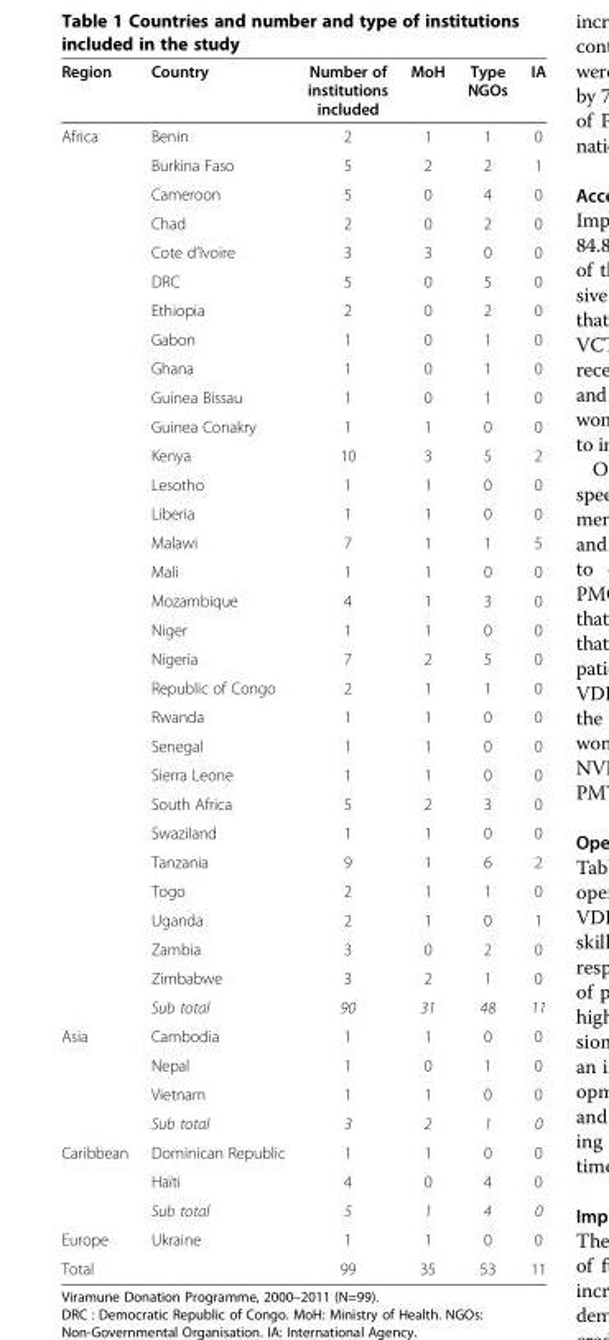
<table><thead><tr><td>Region</td><td>Country</td><td>Number of institutions included</td><td>MoH</td><td>Type NGOs</td><td>IA</td></tr></thead><tbody><tr><td rowspan="31">Africa</td><td>Benin</td><td>2</td><td>1</td><td>1</td><td>0</td></tr><tr><td>Burkina Faso</td><td>5</td><td>2</td><td>2</td><td>1</td></tr><tr><td>Cameroon</td><td>5</td><td>0</td><td>4</td><td>0</td></tr><tr><td>Chad</td><td>2</td><td>0</td><td>2</td><td>0</td></tr><tr><td>Cote d’Ivoire</td><td>3</td><td>3</td><td>0</td><td>0</td></tr><tr><td>DRC</td><td>5</td><td>0</td><td>5</td><td>0</td></tr><tr><td>Ethiopia</td><td>2</td><td>0</td><td>2</td><td>0</td></tr><tr><td>Gabon</td><td>1</td><td>0</td><td>1</td><td>0</td></tr><tr><td>Ghana</td><td>1</td><td>0</td><td>1</td><td>0</td></tr><tr><td>Guinea Bissau</td><td>1</td><td>0</td><td>1</td><td>0</td></tr><tr><td>Guinea Conakry</td><td>1</td><td>1</td><td>0</td><td>0</td></tr><tr><td>Kenya</td><td>10</td><td>3</td><td>5</td><td>2</td></tr><tr><td>Lesotho</td><td>1</td><td>1</td><td>0</td><td>0</td></tr><tr><td>Liberia</td><td>1</td><td>1</td><td>0</td><td>0</td></tr><tr><td>Malawi</td><td>7</td><td>1</td><td>1</td><td>5</td></tr><tr><td>Mali</td><td>1</td><td>1</td><td>0</td><td>0</td></tr><tr><td>Mozambique</td><td>4</td><td>1</td><td>3</td><td>0</td></tr><tr><td>Niger</td><td>1</td><td>1</td><td>0</td><td>0</td></tr><tr><td>Nigeria</td><td>7</td><td>2</td><td>5</td><td>0</td></tr><tr><td>Republic of Congo</td><td>2</td><td>1</td><td>1</td><td>0</td></tr><tr><td>Rwanda</td><td>1</td><td>1</td><td>0</td><td>0</td></tr><tr><td>Senegal</td><td>1</td><td>1</td><td>0</td><td>0</td></tr><tr><td>Sierra Leone</td><td>1</td><td>1</td><td>0</td><td>0</td></tr><tr><td>South Africa</td><td>5</td><td>2</td><td>3</td><td>0</td></tr><tr><td>Swaziland</td><td>1</td><td>1</td><td>0</td><td>0</td></tr><tr><td>Tanzania</td><td>9</td><td>1</td><td>6</td><td>2</td></tr><tr><td>Togo</td><td>2</td><td>1</td><td>1</td><td>0</td></tr><tr><td>Uganda</td><td>2</td><td>1</td><td>0</td><td>1</td></tr><tr><td>Zambia</td><td>3</td><td>0</td><td>2</td><td>0</td></tr><tr><td>Zimbabwe</td><td>3</td><td>2</td><td>1</td><td>0</td></tr><tr><td>Sub total</td><td>90</td><td>31</td><td>48</td><td>11</td></tr><tr><td rowspan="4">Asia</td><td>Cambodia</td><td>1</td><td>1</td><td>0</td><td>0</td></tr><tr><td>Nepal</td><td>1</td><td>0</td><td>1</td><td>0</td></tr><tr><td>Vietnam</td><td>1</td><td>1</td><td>0</td><td>0</td></tr><tr><td>Sub total</td><td>3</td><td>2</td><td>1</td><td>0</td></tr><tr><td rowspan="3">Caribbean</td><td>Dominican Republic</td><td>1</td><td>1</td><td>0</td><td>0</td></tr><tr><td>Haïti</td><td>4</td><td>0</td><td>4</td><td>0</td></tr><tr><td>Sub total</td><td>5</td><td>1</td><td>4</td><td>0</td></tr><tr><td>Europe</td><td>Ukraine</td><td>1</td><td>1</td><td>0</td><td>0</td></tr><tr><td>Total</td><td></td><td>99</td><td>35</td><td>53</td><td>11</td></tr></tbody></table>